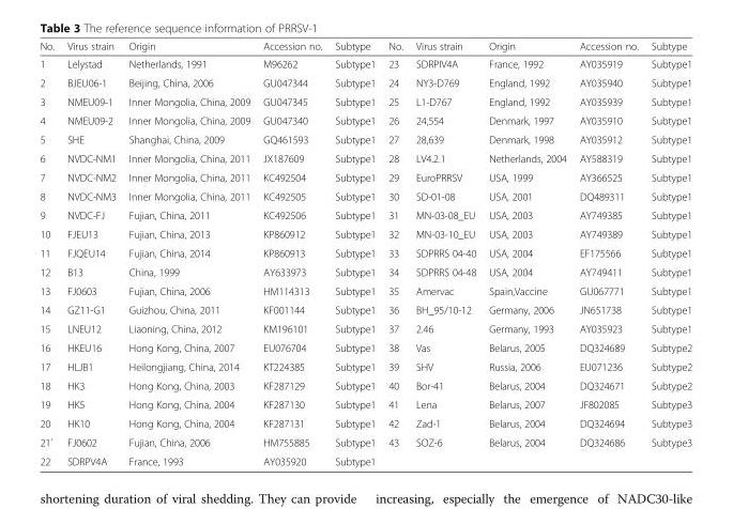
<table><thead><tr><td>No.</td><td>Virus strain</td><td>Origin</td><td>Accession no.</td><td>Subtype</td><td>No.</td><td>Virus strain</td><td>Origin</td><td>Accession no.</td><td>Subtype</td></tr></thead><tbody><tr><td>1</td><td>Lelystad</td><td>Netherlands, 1991</td><td>M96262</td><td>Subtype1</td><td>23</td><td>SDRPIV4A</td><td>France, 1992</td><td>AY035919</td><td>Subtype1</td></tr><tr><td>2</td><td>BJEU06-1</td><td>Beijing, China, 2006</td><td>GU047344</td><td>Subtype1</td><td>24</td><td>NY3-D769</td><td>England, 1992</td><td>AY035940</td><td>Subtype1</td></tr><tr><td>3</td><td>NMEU09-1</td><td>Inner Mongolia, China, 2009</td><td>GU047345</td><td>Subtype1</td><td>25</td><td>L1-D767</td><td>England, 1992</td><td>AY035939</td><td>Subtype1</td></tr><tr><td>4</td><td>NMEU09-2</td><td>Inner Mongolia, China, 2009</td><td>GU047340</td><td>Subtype1</td><td>26</td><td>24,554</td><td>Denmark, 1997</td><td>AY035910</td><td>Subtype1</td></tr><tr><td>5</td><td>SHE</td><td>Shanghai, China, 2009</td><td>GQ461593</td><td>Subtype1</td><td>27</td><td>28,639</td><td>Denmark, 1998</td><td>AY035912</td><td>Subtype1</td></tr><tr><td>6</td><td>NVDC-NM1</td><td>Inner Mongolia, China, 2011</td><td>JX187609</td><td>Subtype1</td><td>28</td><td>LV4.2.1</td><td>Netherlands, 2004</td><td>AY588319</td><td>Subtype1</td></tr><tr><td>7</td><td>NVDC-NM2</td><td>Inner Mongolia, China, 2011</td><td>KC492504</td><td>Subtype1</td><td>29</td><td>EuroPRRSV</td><td>USA, 1999</td><td>AY366525</td><td>Subtype1</td></tr><tr><td>8</td><td>NVDC-NM3</td><td>Inner Mongolia, China, 2011</td><td>KC492505</td><td>Subtype1</td><td>30</td><td>SD-01-08</td><td>USA, 2001</td><td>DQ489311</td><td>Subtype1</td></tr><tr><td>9</td><td>NVDC-FJ</td><td>Fujian, China, 2011</td><td>KC492506</td><td>Subtype1</td><td>31</td><td>MN-03-08_EU</td><td>USA, 2003</td><td>AY749385</td><td>Subtype1</td></tr><tr><td>10</td><td>FJEU13</td><td>Fujian, China, 2013</td><td>KP860912</td><td>Subtype1</td><td>32</td><td>MN-03-10_EU</td><td>USA, 2003</td><td>AY749389</td><td>Subtype1</td></tr><tr><td>11</td><td>FJQEU14</td><td>Fujian, China, 2014</td><td>KP860913</td><td>Subtype1</td><td>33</td><td>SDPRRS 04-40</td><td>USA, 2004</td><td>EF175566</td><td>Subtype1</td></tr><tr><td>12</td><td>B13</td><td>China, 1999</td><td>AY633973</td><td>Subtype1</td><td>34</td><td>SDPRRS 04-48</td><td>USA, 2004</td><td>AY749411</td><td>Subtype1</td></tr><tr><td>13</td><td>FJ0603</td><td>Fujian, China, 2006</td><td>HM114313</td><td>Subtype1</td><td>35</td><td>Amervac</td><td>Spain,Vaccine</td><td>GU067771</td><td>Subtype1</td></tr><tr><td>14</td><td>GZ11-G1</td><td>Guizhou, China, 2011</td><td>KF001144</td><td>Subtype1</td><td>36</td><td>BH_95/10-12</td><td>Germany, 2006</td><td>JN651738</td><td>Subtype1</td></tr><tr><td>15</td><td>LNEU12</td><td>Liaoning, China, 2012</td><td>KM196101</td><td>Subtype1</td><td>37</td><td>2.46</td><td>Germany, 1993</td><td>AY035923</td><td>Subtype1</td></tr><tr><td>16</td><td>HKEU16</td><td>Hong Kong, China, 2007</td><td>EU076704</td><td>Subtype1</td><td>38</td><td>Vas</td><td>Belarus, 2005</td><td>DQ324689</td><td>Subtype2</td></tr><tr><td>17</td><td>HLJB1</td><td>Heilongjiang, China, 2014</td><td>KT224385</td><td>Subtype1</td><td>39</td><td>SHV</td><td>Russia, 2006</td><td>EU071236</td><td>Subtype2</td></tr><tr><td>18</td><td>HK3</td><td>Hong Kong, China, 2003</td><td>KF287129</td><td>Subtype1</td><td>40</td><td>Bor-41</td><td>Belarus, 2004</td><td>DQ324671</td><td>Subtype2</td></tr><tr><td>19</td><td>HK5</td><td>Hong Kong, China, 2004</td><td>KF287130</td><td>Subtype1</td><td>41</td><td>Lena</td><td>Belarus, 2007</td><td>JF802085</td><td>Subtype3</td></tr><tr><td>20</td><td>HK10</td><td>Hong Kong, China, 2004</td><td>KF287131</td><td>Subtype1</td><td>42</td><td>Zad-1</td><td>Belarus, 2004</td><td>DQ324694</td><td>Subtype3</td></tr><tr><td>21`</td><td>FJ0602</td><td>Fujian, China, 2006</td><td>HM755885</td><td>Subtype1</td><td>43</td><td>SOZ-6</td><td>Belarus, 2004</td><td>DQ324686</td><td>Subtype3</td></tr><tr><td>22</td><td>SDRPV4A</td><td>France, 1993</td><td>AY035920</td><td>Subtype1</td><td></td><td></td><td></td><td></td><td></td></tr></tbody></table>